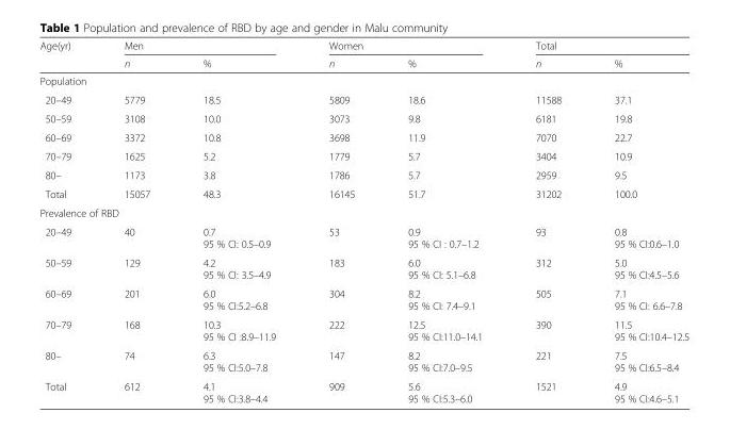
<table><thead><tr><td rowspan="2">Age(yr)</td><td colspan="2">Men</td><td colspan="2">Women</td><td colspan="2">Total</td></tr><tr><td>n</td><td>%</td><td>n</td><td>%</td><td>n</td><td>%</td></tr></thead><tbody><tr><td colspan="7">Population</td></tr><tr><td>20–49</td><td>5779</td><td>18.5</td><td>5809</td><td>18.6</td><td>11588</td><td>37.1</td></tr><tr><td>50–59</td><td>3108</td><td>10.0</td><td>3073</td><td>9.8</td><td>6181</td><td>19.8</td></tr><tr><td>60–69</td><td>3372</td><td>10.8</td><td>3698</td><td>11.9</td><td>7070</td><td>22.7</td></tr><tr><td>70–79</td><td>1625</td><td>5.2</td><td>1779</td><td>5.7</td><td>3404</td><td>10.9</td></tr><tr><td>80–</td><td>1173</td><td>3.8</td><td>1786</td><td>5.7</td><td>2959</td><td>9.5</td></tr><tr><td>Total</td><td>15057</td><td>48.3</td><td>16145</td><td>51.7</td><td>31202</td><td>100.0</td></tr><tr><td colspan="7">Prevalence of RBD</td></tr><tr><td>20–49</td><td>40</td><td>0.7 95 % CI: 0.5–0.9</td><td>53</td><td>0.9 95 % CI : 0.7–1.2</td><td>93</td><td>0.8 95 % CI:0.6–1.0</td></tr><tr><td>50–59</td><td>129</td><td>4.2 95 % CI: 3.5–4.9</td><td>183</td><td>6.0 95 % CI: 5.1–6.8</td><td>312</td><td>5.0 95 % CI:4.5–5.6</td></tr><tr><td>60–69</td><td>201</td><td>6.0 95 % CI:5.2–6.8</td><td>304</td><td>8.2 95 % CI: 7.4–9.1</td><td>505</td><td>7.1 95 % CI: 6.6–7.8</td></tr><tr><td>70–79</td><td>168</td><td>10.3 95 % CI :8.9–11.9</td><td>222</td><td>12.5 95 % CI:11.0–14.1</td><td>390</td><td>11.5 95 % CI:10.4–12.5</td></tr><tr><td>80–</td><td>74</td><td>6.3 95 % CI:5.0–7.8</td><td>147</td><td>8.2 95 % CI:7.0–9.5</td><td>221</td><td>7.5 95 % CI:6.5–8.4</td></tr><tr><td>Total</td><td>612</td><td>4.1 95 % CI:3.8–4.4</td><td>909</td><td>5.6 95 % CI:5.3–6.0</td><td>1521</td><td>4.9 95 % CI:4.6–5.1</td></tr></tbody></table>